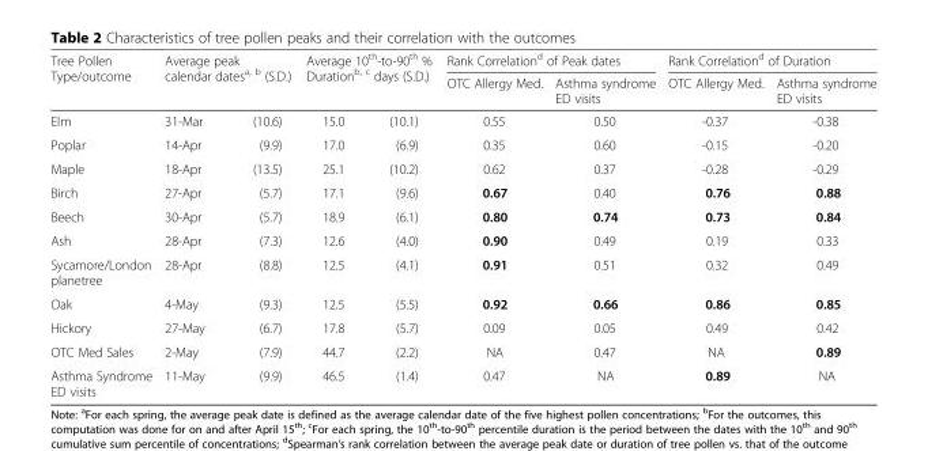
<table><thead><tr><td rowspan="3">Tree Pollen Type/outcome Elm</td><td rowspan="2" colspan="2">Average peak calendar dates<sup>a, b</sup> (S.D.)</td><td rowspan="2" colspan="2">Average 10<sup>th</sup>-to-90<sup>th</sup> % Duration<sup>b, c</sup> days (S.D.)</td><td colspan="2">Rank Correlation<sup>d</sup> of Peak dates</td><td colspan="2">Rank Correlation<sup>d</sup> of Duration</td></tr><tr><td rowspan="2">OTC Allergy Med. 0.55</td><td rowspan="2">Asthma syndrome ED visits 0.50</td><td rowspan="2">OTC Allergy Med. -0.37</td><td rowspan="2">Asthma syndrome ED visits -0.38</td></tr><tr><td>31-Mar</td><td>(10.6)</td><td>15.0</td><td>(10.1)</td></tr></thead><tbody><tr><td>Poplar</td><td>14-Apr</td><td>(9.9)</td><td>17.0</td><td>(6.9)</td><td>0.35</td><td>0.60</td><td>-0.15</td><td>-0.20</td></tr><tr><td>Maple</td><td>18-Apr</td><td>(13.5)</td><td>25.1</td><td>(10.2)</td><td>0.62</td><td>0.37</td><td>-0.28</td><td>-0.29</td></tr><tr><td>Birch</td><td>27-Apr</td><td>(5.7)</td><td>17.1</td><td>(9.6)</td><td>0.67</td><td>0.40</td><td>0.76</td><td>0.88</td></tr><tr><td>Beech</td><td>30-Apr</td><td>(5.7)</td><td>18.9</td><td>(6.1)</td><td>0.80</td><td>0.74</td><td>0.73</td><td>0.84</td></tr><tr><td>Ash</td><td>28-Apr</td><td>(7.3)</td><td>12.6</td><td>(4.0)</td><td>0.90</td><td>0.49</td><td>0.19</td><td>0.33</td></tr><tr><td>Sycamore/London planetree</td><td>28-Apr</td><td>(8.8)</td><td>12.5</td><td>(4.1)</td><td>0.91</td><td>0.51</td><td>0.32</td><td>0.49</td></tr><tr><td>Oak</td><td>4-May</td><td>(9.3)</td><td>12.5</td><td>(5.5)</td><td>0.92</td><td>0.66</td><td>0.86</td><td>0.85</td></tr><tr><td>Hickory</td><td>27-May</td><td>(6.7)</td><td>17.8</td><td>(5.7)</td><td>0.09</td><td>0.05</td><td>0.49</td><td>0.42</td></tr><tr><td>OTC Med Sales</td><td>2-May</td><td>(7.9)</td><td>44.7</td><td>(2.2)</td><td>NA</td><td>0.47</td><td>NA</td><td>0.89</td></tr><tr><td>Asthma Syndrome ED visits</td><td>11-May</td><td>(9.9)</td><td>46.5</td><td>(1.4)</td><td>0.47</td><td>NA</td><td>0.89</td><td>NA</td></tr></tbody></table>